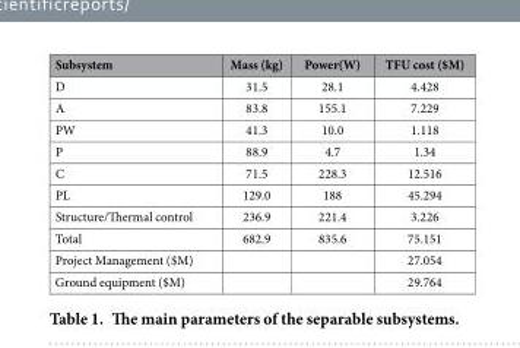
<table><thead><tr><td>Subsystem</td><td>Mass (kg)</td><td>Power(W)</td><td>TFU cost ($M)</td></tr></thead><tbody><tr><td>D</td><td>31.5</td><td>28.1</td><td>4.428</td></tr><tr><td>A</td><td>83.8</td><td>155.1</td><td>7.229</td></tr><tr><td>PW</td><td>41.3</td><td>10.0</td><td>1.118</td></tr><tr><td>P</td><td>88.9</td><td>4.7</td><td>1.34</td></tr><tr><td>C</td><td>71.5</td><td>228.3</td><td>12.516</td></tr><tr><td>PL</td><td>129.0</td><td>188</td><td>45.294</td></tr><tr><td>Structure/Thermal control</td><td>236.9</td><td>221.4</td><td>3.226</td></tr><tr><td>Total</td><td>682.9</td><td>835.6</td><td>75.151</td></tr><tr><td>Project Management ($M)</td><td></td><td></td><td>27.054</td></tr><tr><td>Ground equipment ($M)</td><td></td><td></td><td>29.764</td></tr></tbody></table>